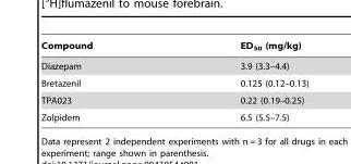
<table><thead><tr><td>Compound</td><td>ED<sub>50</sub> (mg/kg)</td></tr></thead><tbody><tr><td>Diazepam</td><td>3.9 (3.3–4.4)</td></tr><tr><td>Bretazenil</td><td>0.125 (0.12–0.13)</td></tr><tr><td>TPA023</td><td>0.22 (0.19–0.25)</td></tr><tr><td>Zolpidem</td><td>6.5 (5.5–7.5)</td></tr></tbody></table>